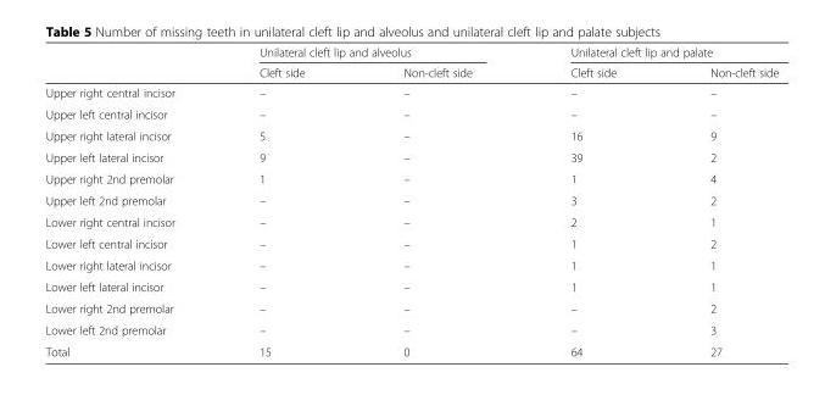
<table><thead><tr><td rowspan="2"></td><td colspan="2">Unilateral cleft lip and alveolus</td><td colspan="2">Unilateral cleft lip and palate</td></tr><tr><td>Cleft side</td><td>Non-cleft side</td><td>Cleft side</td><td>Non-cleft side</td></tr></thead><tbody><tr><td>Upper right central incisor</td><td>–</td><td>–</td><td>–</td><td>–</td></tr><tr><td>Upper left central incisor</td><td>–</td><td>–</td><td>–</td><td>–</td></tr><tr><td>Upper right lateral incisor</td><td>5</td><td>–</td><td>16</td><td>9</td></tr><tr><td>Upper left lateral incisor</td><td>9</td><td>–</td><td>39</td><td>2</td></tr><tr><td>Upper right 2nd premolar</td><td>1</td><td>–</td><td>1</td><td>4</td></tr><tr><td>Upper left 2nd premolar</td><td>–</td><td>–</td><td>3</td><td>2</td></tr><tr><td>Lower right central incisor</td><td>–</td><td>–</td><td>2</td><td>1</td></tr><tr><td>Lower left central incisor</td><td>–</td><td>–</td><td>1</td><td>2</td></tr><tr><td>Lower right lateral incisor</td><td>–</td><td>–</td><td>1</td><td>1</td></tr><tr><td>Lower left lateral incisor</td><td>–</td><td>–</td><td>1</td><td>1</td></tr><tr><td>Lower right 2nd premolar</td><td>–</td><td>–</td><td>–</td><td>2</td></tr><tr><td>Lower left 2nd premolar</td><td>–</td><td>–</td><td>–</td><td>3</td></tr><tr><td>Total</td><td>15</td><td>0</td><td>64</td><td>27</td></tr></tbody></table>